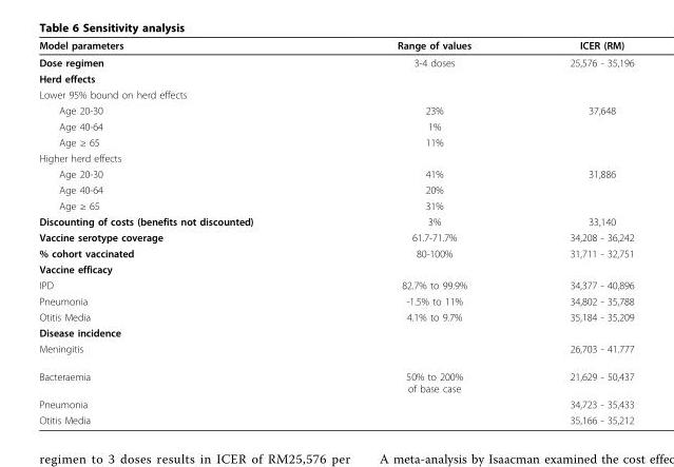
<table><thead><tr><td>Model parameters</td><td>Range of values</td><td>ICER (RM)</td></tr></thead><tbody><tr><td>Dose regimen</td><td>3-4 doses</td><td>25,576 - 35,196</td></tr><tr><td colspan="3">Herd effects</td></tr><tr><td colspan="3">Lower 95% bound on herd effects</td></tr><tr><td>Age 20-30</td><td>23%</td><td>37,648</td></tr><tr><td>Age 40-64</td><td>1%</td><td></td></tr><tr><td>Age ≥ 65</td><td>11%</td><td></td></tr><tr><td colspan="3">Higher herd effects</td></tr><tr><td>Age 20-30</td><td>41%</td><td>31,886</td></tr><tr><td>Age 40-64</td><td>20%</td><td></td></tr><tr><td>Age ≥ 65</td><td>31%</td><td></td></tr><tr><td>Discounting of costs (benefits not discounted)</td><td>3%</td><td>33,140</td></tr><tr><td>Vaccine serotype coverage</td><td>61.7-71.7%</td><td>34,208 - 36,242</td></tr><tr><td>% cohort vaccinated</td><td>80-100%</td><td>31,711 - 32,751</td></tr><tr><td colspan="3">Vaccine efficacy</td></tr><tr><td>IPD</td><td>82.7% to 99.9%</td><td>34,377 - 40,896</td></tr><tr><td>Pneumonia</td><td>-1.5% to 11%</td><td>34,802 - 35,788</td></tr><tr><td>Otitis Media</td><td>4.1% to 9.7%</td><td>35,184 - 35,209</td></tr><tr><td colspan="3">Disease incidence</td></tr><tr><td>Meningitis</td><td></td><td>26,703 - 41.777</td></tr><tr><td>Bacteraemia</td><td>50% to 200% of base case</td><td>21,629 - 50,437</td></tr><tr><td>Pneumonia</td><td></td><td>34,723 - 35,433</td></tr><tr><td>Otitis Media</td><td></td><td>35,166 - 35,212</td></tr></tbody></table>